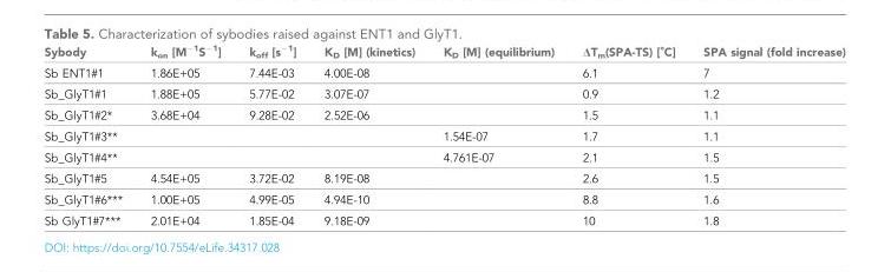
<table><thead><tr><td>Sybody</td><td>k<sub>on</sub> [M<sup>−1</sup>S<sup>−1</sup>]</td><td>k<sub>off</sub> [s<sup>−1</sup>]</td><td>K<sub>D</sub> [M] (kinetics)</td><td>K<sub>D</sub> [M] (equilibrium)</td><td>ΔTm(SPA-TS) [˚C]</td><td>SPA signal (fold increase)</td></tr></thead><tbody><tr><td>Sb ENT1#1</td><td>1.86E+05</td><td>7.44E-03</td><td>4.00E-08</td><td></td><td>6.1</td><td>7</td></tr><tr><td>Sb_GlyT1#1</td><td>1.88E+05</td><td>5.77E-02</td><td>3.07E-07</td><td></td><td>0.9</td><td>1.2</td></tr><tr><td>Sb_GlyT1#2*</td><td>3.68E+04</td><td>9.28E-02</td><td>2.52E-06</td><td></td><td>1.5</td><td>1.1</td></tr><tr><td>Sb_GlyT1#3**</td><td></td><td></td><td></td><td>1.54E-07</td><td>1.7</td><td>1.1</td></tr><tr><td>Sb_GlyT1#4**</td><td></td><td></td><td></td><td>4.761E-07</td><td>2.1</td><td>1.5</td></tr><tr><td>Sb_GlyT1#5</td><td>4.54E+05</td><td>3.72E-02</td><td>8.19E-08</td><td></td><td>2.6</td><td>1.5</td></tr><tr><td>Sb_GlyT1#6***</td><td>1.00E+05</td><td>4.99E-05</td><td>4.94E-10</td><td></td><td>8.8</td><td>1.6</td></tr><tr><td>Sb GlyT1#7***</td><td>2.01E+04</td><td>1.85E-04</td><td>9.18E-09</td><td></td><td>10</td><td>1.8</td></tr></tbody></table>